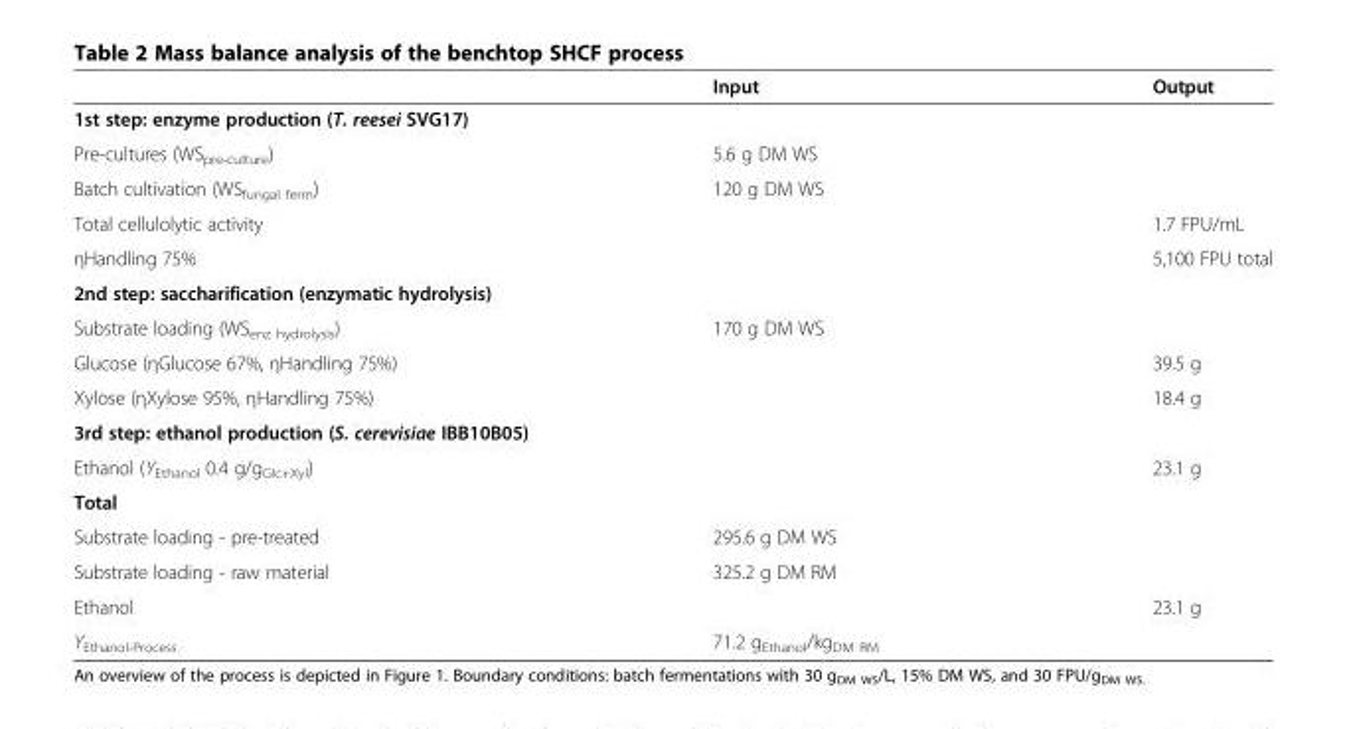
<table><thead><tr><td></td><td>Input</td><td>Output</td></tr></thead><tbody><tr><td colspan="3">1st step: enzyme production (T. reesei SVG17)</td></tr><tr><td>Pre-cultures (WS<sub>pre-culture</sub>)</td><td>5.6 g DM WS</td><td></td></tr><tr><td>Batch cultivation (WS<sub>fungal ferm</sub>)</td><td>120 g DM WS</td><td></td></tr><tr><td>Total cellulolytic activity</td><td></td><td>1.7 FPU/mL</td></tr><tr><td>ηHandling 75%</td><td></td><td>5,100 FPU total</td></tr><tr><td colspan="3">2nd step: saccharification (enzymatic hydrolysis)</td></tr><tr><td>Substrate loading (WS<sub>enz hydrolysis</sub>)</td><td>170 g DM WS</td><td></td></tr><tr><td>Glucose (ηGlucose 67%, ηHandling 75%)</td><td></td><td>39.5 g</td></tr><tr><td>Xylose (ηXylose 95%, ηHandling 75%)</td><td></td><td>18.4 g</td></tr><tr><td colspan="3">3rd step: ethanol production (S. cerevisiae IBB10B05)</td></tr><tr><td>Ethanol (Y<sub>Ethanol</sub> 0.4 g/g<sub>Glc+Xyl</sub>)</td><td></td><td>23.1 g</td></tr><tr><td colspan="3">Total</td></tr><tr><td>Substrate loading - pre-treated</td><td>295.6 g DM WS</td><td></td></tr><tr><td>Substrate loading - raw material</td><td>325.2 g DM RM</td><td></td></tr><tr><td>Ethanol</td><td></td><td>23.1 g</td></tr><tr><td>Y<sub>Ethanol-Process</sub></td><td colspan="2">71.2 g<sub>Ethanol</sub>/kg<sub>DM RM</sub></td></tr></tbody></table>